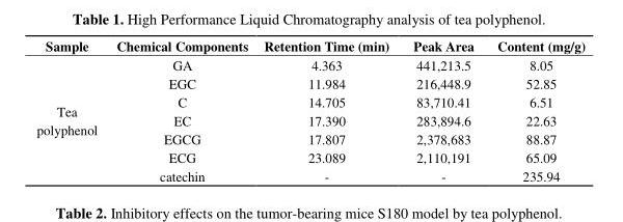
<table><thead><tr><td>Sample</td><td>Chemical Components</td><td>Retention Time (min)</td><td>Peak Area</td><td>Content (mg/g)</td></tr></thead><tbody><tr><td rowspan="7">Tea polyphenol</td><td>GA</td><td>4.363</td><td>441,213.5</td><td>8.05</td></tr><tr><td>EGC</td><td>11.984</td><td>216,448.9</td><td>52.85</td></tr><tr><td>C</td><td>14.705</td><td>83,710.41</td><td>6.51</td></tr><tr><td>EC</td><td>17.390</td><td>283,894.6</td><td>22.63</td></tr><tr><td>EGCG</td><td>17.807</td><td>2,378,683</td><td>88.87</td></tr><tr><td>ECG</td><td>23.089</td><td>2,110,191</td><td>65.09</td></tr><tr><td>catechin</td><td>-</td><td>-</td><td>235.94</td></tr></tbody></table>